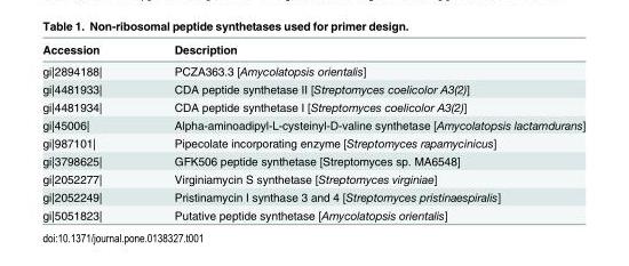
<table><thead><tr><td>Accession</td><td>Description</td></tr></thead><tbody><tr><td>gi|2894188|</td><td>PCZA363.3 [Amycolatopsis orientalis]</td></tr><tr><td>gi|4481933|</td><td>CDA peptide synthetase II [Streptomyces coelicolor A3(2)]</td></tr><tr><td>gi|4481934|</td><td>CDA peptide synthetase I [Streptomyces coelicolor A3(2)]</td></tr><tr><td>gi|45006|</td><td>Alpha-aminoadipyl-L-cysteinyl-D-valine synthetase [Amycolatopsis lactamdurans]</td></tr><tr><td>gi|987101|</td><td>Pipecolate incorporating enzyme [Streptomyces rapamycinicus]</td></tr><tr><td>gi|3798625|</td><td>GFK506 peptide synthetase [Streptomyces sp. MA6548]</td></tr><tr><td>gi|2052277|</td><td>Virginiamycin S synthetase [Streptomyces virginiae]</td></tr><tr><td>gi|2052249|</td><td>Pristinamycin I synthase 3 and 4 [Streptomyces pristinaespiralis]</td></tr><tr><td>gi|5051823|</td><td>Putative peptide synthetase [Amycolatopsis orientalis]</td></tr></tbody></table>